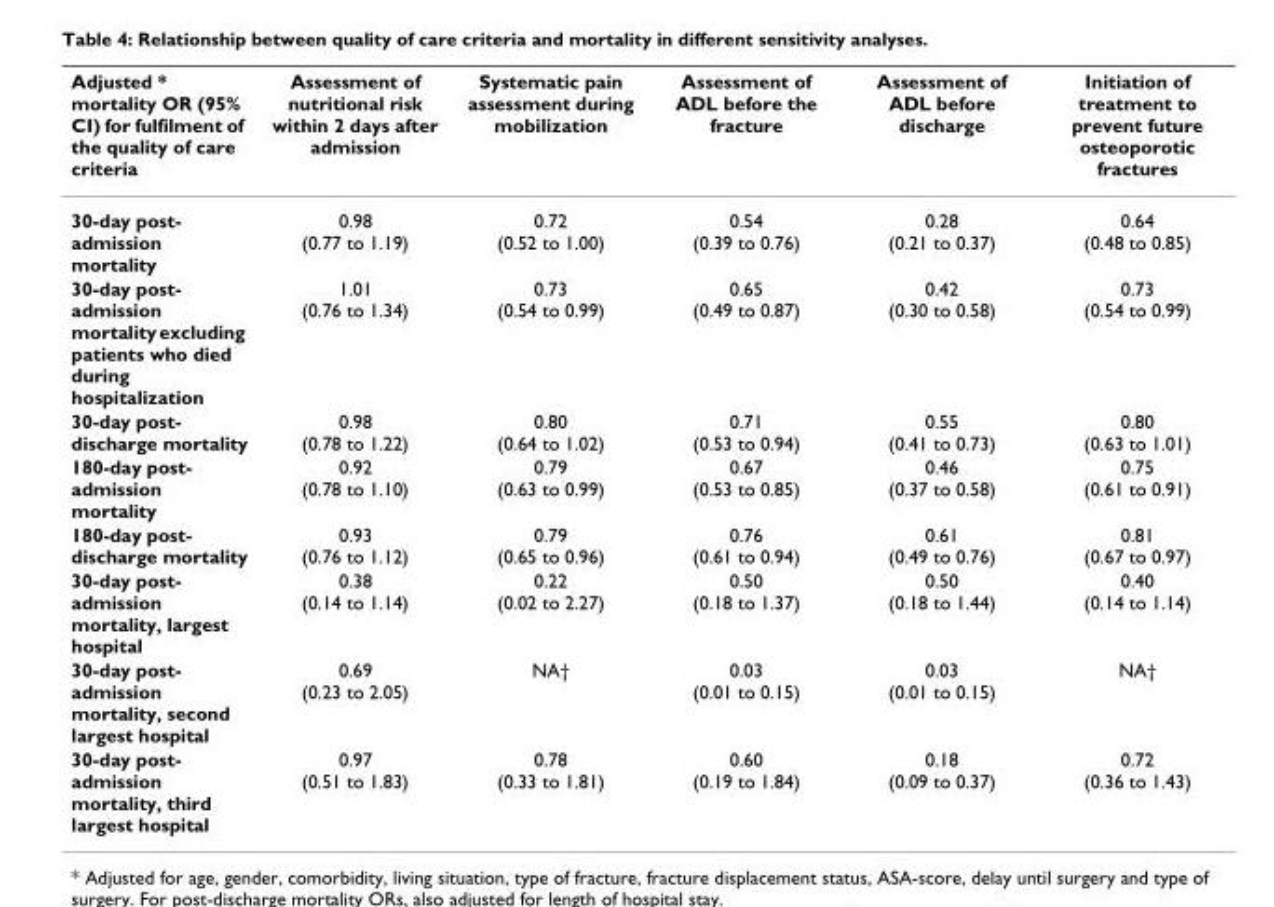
<table><thead><tr><td>Adjusted * mortality OR (95% CI) for fulfilment of the quality of care criteria</td><td>Assessment of nutritional risk within 2 days after admission</td><td>Systematic pain assessment during mobilization</td><td>Assessment of ADL before the fracture</td><td>Assessment of ADL before discharge</td><td>Initiation of treatment to prevent future osteoporotic fractures</td></tr></thead><tbody><tr><td>30-day post- admission mortality</td><td>0.98 (0.77 to 1.19)</td><td>0.72 (0.52 to 1.00)</td><td>0.54 (0.39 to 0.76)</td><td>0.28 (0.21 to 0.37)</td><td>0.64 (0.48 to 0.85)</td></tr><tr><td>30-day post- admission mortality excluding patients who died during hospitalization</td><td>1.01 (0.76 to 1.34)</td><td>0.73 (0.54 to 0.99)</td><td>0.65 (0.49 to 0.87)</td><td>0.42 (0.30 to 0.58)</td><td>0.73 (0.54 to 0.99)</td></tr><tr><td>30-day post- discharge mortality</td><td>0.98 (0.78 to 1.22)</td><td>0.80 (0.64 to 1.02)</td><td>0.71 (0.53 to 0.94)</td><td>0.55 (0.41 to 0.73)</td><td>0.80 (0.63 to 1.01)</td></tr><tr><td>180-day post- admission mortality</td><td>0.92 (0.78 to 1.10)</td><td>0.79 (0.63 to 0.99)</td><td>0.67 (0.53 to 0.85)</td><td>0.46 (0.37 to 0.58)</td><td>0.75 (0.61 to 0.91)</td></tr><tr><td>180-day post- discharge mortality</td><td>0.93 (0.76 to 1.12)</td><td>0.79 (0.65 to 0.96)</td><td>0.76 (0.61 to 0.94)</td><td>0.61 (0.49 to 0.76)</td><td>0.81 (0.67 to 0.97)</td></tr><tr><td>30-day post- admission mortality, largest hospital</td><td>0.38 (0.14 to 1.14)</td><td>0.22 (0.02 to 2.27)</td><td>0.50 (0.18 to 1.37)</td><td>0.50 (0.18 to 1.44)</td><td>0.40 (0.14 to 1.14)</td></tr><tr><td>30-day post- admission mortality, second largest hospital</td><td>0.69 (0.23 to 2.05)</td><td>NA†</td><td>0.03 (0.01 to 0.15)</td><td>0.03 (0.01 to 0.15)</td><td>NA†</td></tr><tr><td>30-day post- admission mortality, third largest hospital</td><td>0.97 (0.51 to 1.83)</td><td>0.78 (0.33 to 1.81)</td><td>0.60 (0.19 to 1.84)</td><td>0.18 (0.09 to 0.37)</td><td>0.72 (0.36 to 1.43)</td></tr></tbody></table>